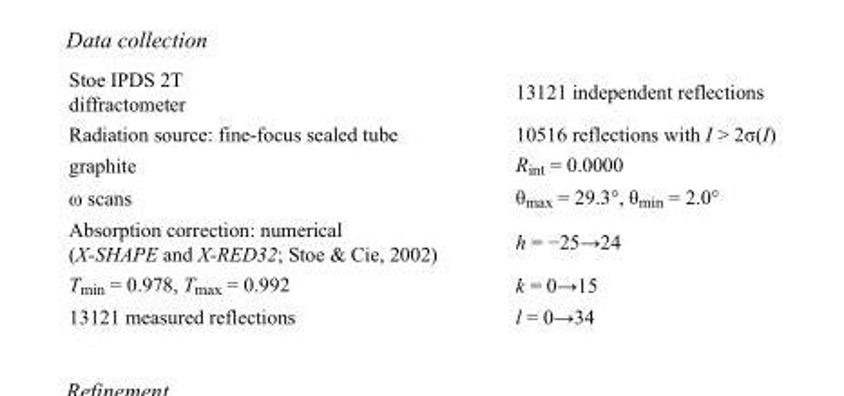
<table><tbody><tr><td>Stoe IPDS 2T diffractometer</td><td>13121 independent reflections</td></tr><tr><td>Radiation source: fine-focus sealed tube</td><td>10516 reflections with I &gt; 2σ(I)</td></tr><tr><td>graphite</td><td>R<sub>int</sub> = 0.0000</td></tr><tr><td>ω scans</td><td>θ<sub>max</sub> = 29.3°, θ<sub>min</sub> = 2.0°</td></tr><tr><td>Absorption correction: numerical (X-SHAPE and X-RED32; Stoe &amp; Cie, 2002)</td><td>h = −25→24</td></tr><tr><td>T<sub>min</sub> = 0.978, T<sub>max</sub> = 0.992</td><td>k = 0→15</td></tr><tr><td>13121 measured reflections</td><td>l = 0→34</td></tr></tbody></table>